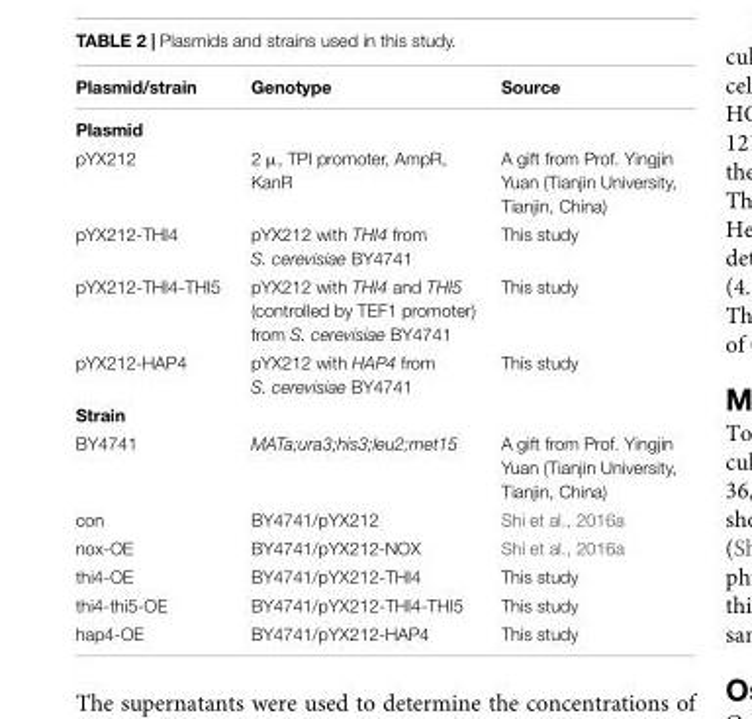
<table><thead><tr><td>Plasmid/strain</td><td>Genotype</td><td>Source</td></tr></thead><tbody><tr><td colspan="3">Plasmid</td></tr><tr><td>pYX212</td><td>2 µ, TPI promoter, AmpR, KanR</td><td>A gift from Prof. Yingjin Yuan (Tianjin University, Tianjin, China)</td></tr><tr><td>pYX212-THI4</td><td>pYX212 with THI4 from S. cerevisiae BY4741</td><td>This study</td></tr><tr><td>pYX212-THI4-THI5</td><td>pYX212 with THI4 and THI5 (controlled by TEF1 promoter) from S. cerevisiae BY4741</td><td>This study</td></tr><tr><td>pYX212-HAP4</td><td>pYX212 with HAP4 from S. cerevisiae BY4741</td><td>This study</td></tr><tr><td colspan="3">Strain</td></tr><tr><td>BY4741</td><td>MATa;ura3;his3;leu2;met15</td><td>A gift from Prof. Yingjin Yuan (Tianjin University, Tianjin, China)</td></tr><tr><td>con</td><td>BY4741/pYX212</td><td>Shi et al., 2016a</td></tr><tr><td>nox-OE</td><td>BY4741/pYX212-NOX</td><td>Shi et al., 2016a</td></tr><tr><td>thi4-OE</td><td>BY4741/pYX212-THI4</td><td>This study</td></tr><tr><td>thi4-thi5-OE</td><td>BY4741/pYX212-THI4-THI5</td><td>This study</td></tr><tr><td>hap4-OE</td><td>BY4741/pYX212-HAP4</td><td>This study</td></tr></tbody></table>